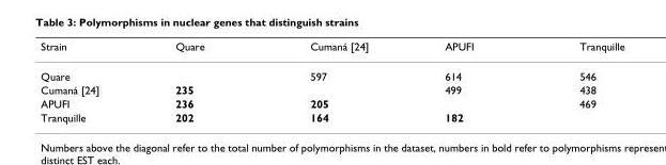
<table><thead><tr><td>Strain</td><td>Quare</td><td>Cumaná [24]</td><td>APUFI</td><td>Tranquille</td></tr></thead><tbody><tr><td>Quare</td><td></td><td>597</td><td>614</td><td>546</td></tr><tr><td>Cumaná [24]</td><td>235</td><td></td><td>499</td><td>438</td></tr><tr><td>APUFI</td><td>236</td><td>205</td><td></td><td>469</td></tr><tr><td>Tranquille</td><td>202</td><td>164</td><td>182</td><td></td></tr></tbody></table>